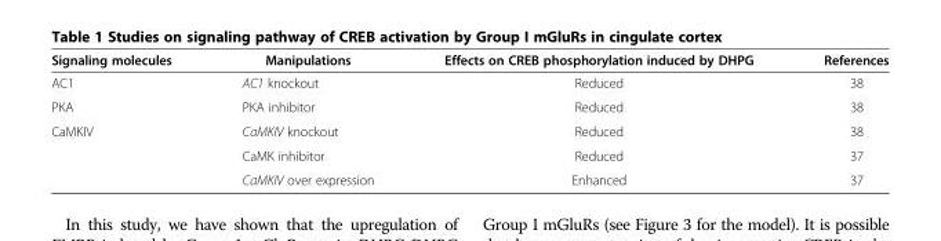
<table><thead><tr><td>Signaling molecules</td><td>Manipulations</td><td>Effects on CREB phosphorylation induced by DHPG</td><td>References</td></tr></thead><tbody><tr><td>AC1</td><td>AC1 knockout</td><td>Reduced</td><td>38</td></tr><tr><td>PKA</td><td>PKA inhibitor</td><td>Reduced</td><td>38</td></tr><tr><td rowspan="3">CaMKIV</td><td>CaMKIV knockout</td><td>Reduced</td><td>38</td></tr><tr><td>CaMK inhibitor</td><td>Reduced</td><td>37</td></tr><tr><td>CaMKIV over expression</td><td>Enhanced</td><td>37</td></tr></tbody></table>